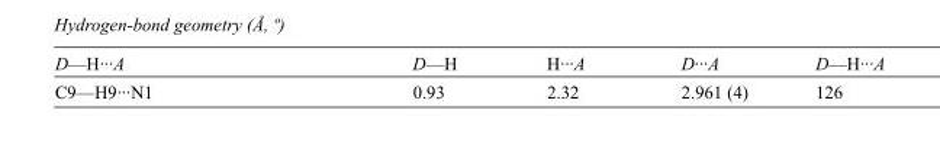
<table><tbody><tr><td>D—H···A</td><td>D—H</td><td>H···A</td><td>D···A</td><td>D—H···A</td></tr><tr><td>C9—H9···N1</td><td>0.93</td><td>2.32</td><td>2.961 (4)</td><td>126</td></tr></tbody></table>